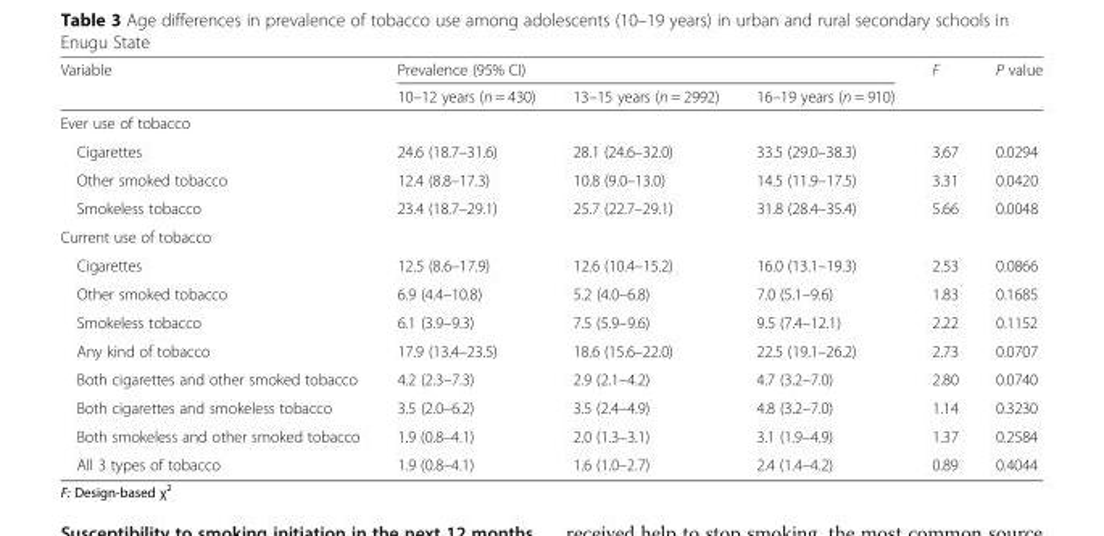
<table><thead><tr><td rowspan="2">Variable</td><td colspan="3">Prevalence (95% CI)</td><td rowspan="2">F</td><td rowspan="2">P value</td></tr><tr><td>10–12 years (n = 430)</td><td>13–15 years (n = 2992)</td><td>16–19 years (n = 910)</td></tr></thead><tbody><tr><td colspan="6">Ever use of tobacco</td></tr><tr><td>Cigarettes</td><td>24.6 (18.7–31.6)</td><td>28.1 (24.6–32.0)</td><td>33.5 (29.0–38.3)</td><td>3.67</td><td>0.0294</td></tr><tr><td>Other smoked tobacco</td><td>12.4 (8.8–17.3)</td><td>10.8 (9.0–13.0)</td><td>14.5 (11.9–17.5)</td><td>3.31</td><td>0.0420</td></tr><tr><td>Smokeless tobacco</td><td>23.4 (18.7–29.1)</td><td>25.7 (22.7–29.1)</td><td>31.8 (28.4–35.4)</td><td>5.66</td><td>0.0048</td></tr><tr><td colspan="6">Current use of tobacco</td></tr><tr><td>Cigarettes</td><td>12.5 (8.6–17.9)</td><td>12.6 (10.4–15.2)</td><td>16.0 (13.1–19.3)</td><td>2.53</td><td>0.0866</td></tr><tr><td>Other smoked tobacco</td><td>6.9 (4.4–10.8)</td><td>5.2 (4.0–6.8)</td><td>7.0 (5.1–9.6)</td><td>1.83</td><td>0.1685</td></tr><tr><td>Smokeless tobacco</td><td>6.1 (3.9–9.3)</td><td>7.5 (5.9–9.6)</td><td>9.5 (7.4–12.1)</td><td>2.22</td><td>0.1152</td></tr><tr><td>Any kind of tobacco</td><td>17.9 (13.4–23.5)</td><td>18.6 (15.6–22.0)</td><td>22.5 (19.1–26.2)</td><td>2.73</td><td>0.0707</td></tr><tr><td>Both cigarettes and other smoked tobacco</td><td>4.2 (2.3–7.3)</td><td>2.9 (2.1–4.2)</td><td>4.7 (3.2–7.0)</td><td>2.80</td><td>0.0740</td></tr><tr><td>Both cigarettes and smokeless tobacco</td><td>3.5 (2.0–6.2)</td><td>3.5 (2.4–4.9)</td><td>4.8 (3.2–7.0)</td><td>1.14</td><td>0.3230</td></tr><tr><td>Both smokeless and other smoked tobacco</td><td>1.9 (0.8–4.1)</td><td>2.0 (1.3–3.1)</td><td>3.1 (1.9–4.9)</td><td>1.37</td><td>0.2584</td></tr><tr><td>All 3 types of tobacco</td><td>1.9 (0.8–4.1)</td><td>1.6 (1.0–2.7)</td><td>2.4 (1.4–4.2)</td><td>0.89</td><td>0.4044</td></tr></tbody></table>